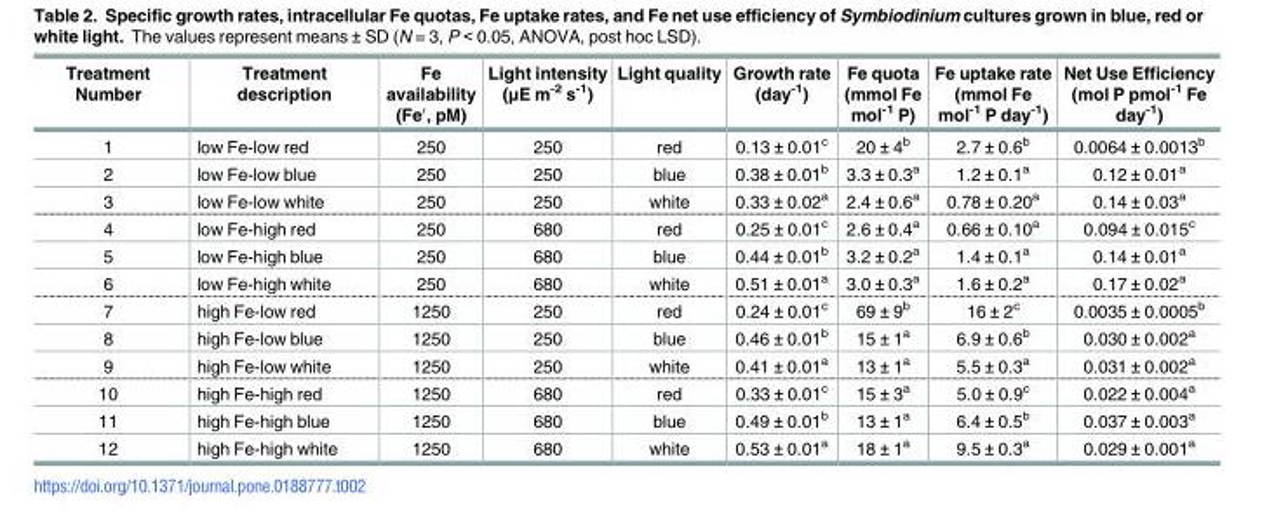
<table><thead><tr><td>Treatment Number</td><td>Treatment description</td><td>Fe availability (Fe′, pM)</td><td>Light intensity (μE m<sup>-2</sup> s<sup>-1</sup>)</td><td>Light quality</td><td>Growth rate (day<sup>-1</sup>)</td><td>Fe quota (mmol Fe mol<sup>-1</sup> P)</td><td>Fe uptake rate (mmol Fe mol<sup>-1</sup> P day<sup>-1</sup>)</td><td>Net Use Efficiency (mol P pmol<sup>-1</sup> Fe day<sup>-1</sup>)</td></tr></thead><tbody><tr><td>1</td><td>low Fe-low red</td><td>250</td><td>250</td><td>red</td><td>0.13 ± 0.01<sup>c</sup></td><td>20 ± 4<sup>b</sup></td><td>2.7 ± 0.6<sup>b</sup></td><td>0.0064 ± 0.0013<sup>b</sup></td></tr><tr><td>2</td><td>low Fe-low blue</td><td>250</td><td>250</td><td>blue</td><td>0.38 ± 0.01<sup>b</sup></td><td>3.3 ± 0.3<sup>a</sup></td><td>1.2 ± 0.1<sup>a</sup></td><td>0.12 ± 0.01<sup>a</sup></td></tr><tr><td>3</td><td>low Fe-low white</td><td>250</td><td>250</td><td>white</td><td>0.33 ± 0.02<sup>a</sup></td><td>2.4 ± 0.6<sup>a</sup></td><td>0.78 ± 0.20<sup>a</sup></td><td>0.14 ± 0.03<sup>a</sup></td></tr><tr><td>4</td><td>low Fe-high red</td><td>250</td><td>680</td><td>red</td><td>0.25 ± 0.01<sup>c</sup></td><td>2.6 ± 0.4<sup>a</sup></td><td>0.66 ± 0.10<sup>a</sup></td><td>0.094 ± 0.015<sup>c</sup></td></tr><tr><td>5</td><td>low Fe-high blue</td><td>250</td><td>680</td><td>blue</td><td>0.44 ± 0.01<sup>b</sup></td><td>3.2 ± 0.2<sup>a</sup></td><td>1.4 ± 0.1<sup>a</sup></td><td>0.14 ± 0.01<sup>a</sup></td></tr><tr><td>6</td><td>low Fe-high white</td><td>250</td><td>680</td><td>white</td><td>0.51 ± 0.01<sup>a</sup></td><td>3.0 ± 0.3<sup>a</sup></td><td>1.6 ± 0.2<sup>a</sup></td><td>0.17 ± 0.02<sup>a</sup></td></tr><tr><td>7</td><td>high Fe-low red</td><td>1250</td><td>250</td><td>red</td><td>0.24 ± 0.01<sup>c</sup></td><td>69 ± 9<sup>b</sup></td><td>16 ± 2<sup>c</sup></td><td>0.0035 ± 0.0005<sup>b</sup></td></tr><tr><td>8</td><td>high Fe-low blue</td><td>1250</td><td>250</td><td>blue</td><td>0.46 ± 0.01<sup>b</sup></td><td>15 ± 1<sup>a</sup></td><td>6.9 ± 0.6<sup>b</sup></td><td>0.030 ± 0.002<sup>a</sup></td></tr><tr><td>9</td><td>high Fe-low white</td><td>1250</td><td>250</td><td>white</td><td>0.41 ± 0.01<sup>a</sup></td><td>13 ± 1<sup>a</sup></td><td>5.5 ± 0.3<sup>a</sup></td><td>0.031 ± 0.002<sup>a</sup></td></tr><tr><td>10</td><td>high Fe-high red</td><td>1250</td><td>680</td><td>red</td><td>0.33 ± 0.01<sup>c</sup></td><td>15 ± 3<sup>a</sup></td><td>5.0 ± 0.9<sup>c</sup></td><td>0.022 ± 0.004<sup>a</sup></td></tr><tr><td>11</td><td>high Fe-high blue</td><td>1250</td><td>680</td><td>blue</td><td>0.49 ± 0.01<sup>b</sup></td><td>13 ± 1<sup>a</sup></td><td>6.4 ± 0.5<sup>b</sup></td><td>0.037 ± 0.003<sup>a</sup></td></tr><tr><td>12</td><td>high Fe-high white</td><td>1250</td><td>680</td><td>white</td><td>0.53 ± 0.01<sup>a</sup></td><td>18 ± 1<sup>a</sup></td><td>9.5 ± 0.3<sup>a</sup></td><td>0.029 ± 0.001<sup>a</sup></td></tr></tbody></table>